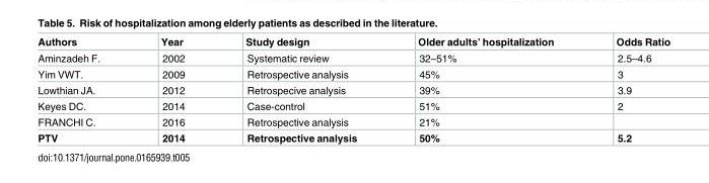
<table><thead><tr><td>Authors</td><td>Year</td><td>Study design</td><td>Older adults’ hospitalization</td><td>Odds Ratio</td></tr></thead><tbody><tr><td>Aminzadeh F.</td><td>2002</td><td>Systematic review</td><td>32–51%</td><td>2.5–4.6</td></tr><tr><td>Yim VWT.</td><td>2009</td><td>Retrospective analysis</td><td>45%</td><td>3</td></tr><tr><td>Lowthian JA.</td><td>2012</td><td>Retrospecive analysis</td><td>39%</td><td>3.9</td></tr><tr><td>Keyes DC.</td><td>2014</td><td>Case-control</td><td>51%</td><td>2</td></tr><tr><td>FRANCHI C.</td><td>2016</td><td>Retrospective analysis</td><td>21%</td><td></td></tr><tr><td>PTV</td><td>2014</td><td>Retrospective analysis</td><td>50%</td><td>5.2</td></tr></tbody></table>